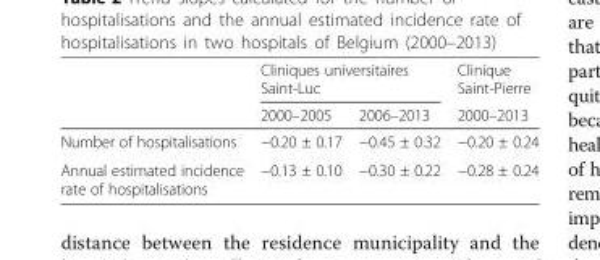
<table><thead><tr><td rowspan="2"></td><td colspan="2">Cliniques universitaires Saint-Luc</td><td rowspan="2">Clinique Saint-Pierre 2000–2013</td></tr><tr><td>2000–2005</td><td>2006–2013</td></tr></thead><tbody><tr><td>Number of hospitalisations</td><td>−0.20 ± 0.17</td><td>−0.45 ± 0.32</td><td>−0.20 ± 0.24</td></tr><tr><td>Annual estimated incidence rate of hospitalisations</td><td>−0.13 ± 0.10</td><td>−0.30 ± 0.22</td><td>−0.28 ± 0.24</td></tr></tbody></table>